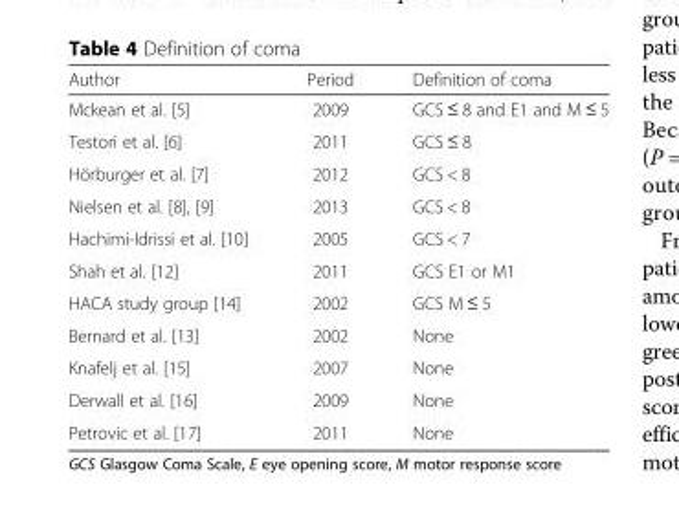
<table><thead><tr><td>Author</td><td>Period</td><td>Definition of coma</td></tr></thead><tbody><tr><td>Mckean et al. [5]</td><td>2009</td><td>GCS ≤ 8 and E1 and M ≤ 5</td></tr><tr><td>Testori et al. [6]</td><td>2011</td><td>GCS ≤ 8</td></tr><tr><td>Hörburger et al. [7]</td><td>2012</td><td>GCS &lt; 8</td></tr><tr><td>Nielsen et al. [8], [9]</td><td>2013</td><td>GCS &lt; 8</td></tr><tr><td>Hachimi-Idrissi et al. [10]</td><td>2005</td><td>GCS &lt; 7</td></tr><tr><td>Shah et al. [12]</td><td>2011</td><td>GCS E1 or M1</td></tr><tr><td>HACA study group [14]</td><td>2002</td><td>GCS M ≤ 5</td></tr><tr><td>Bernard et al. [13]</td><td>2002</td><td>None</td></tr><tr><td>Knafelj et al. [15]</td><td>2007</td><td>None</td></tr><tr><td>Derwall et al. [16]</td><td>2009</td><td>None</td></tr><tr><td>Petrovic et al. [17]</td><td>2011</td><td>None</td></tr></tbody></table>